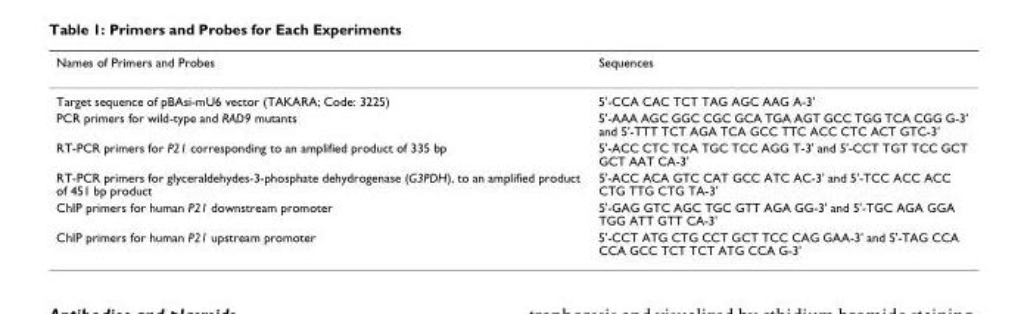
<table><thead><tr><td>Names of Primers and Probes</td><td>Sequences</td></tr></thead><tbody><tr><td>Target sequence of pBAsi-mU6 vector (TAKARA; Code: 3225)</td><td>5&#x27;-CCA CAC TCT TAG AGC AAG A-3&#x27;</td></tr><tr><td>PCR primers for wild-type and RAD9 mutants</td><td>5&#x27;-AAA AGC GGC CGC GCA TGA AGT GCC TGG TCA CGG G-3&#x27; and 5&#x27;-TTT TCT AGA TCA GCC TTC ACC CTC ACT GTC-3&#x27;</td></tr><tr><td>RT-PCR primers for P21 corresponding to an amplified product of 335 bp</td><td>5&#x27;-ACC CTC TCA TGC TCC AGG T-3&#x27; and 5&#x27;-CCT TGT TCC GCT GCT AAT CA-3&#x27;</td></tr><tr><td>RT-PCR primers for glyceraldehydes-3-phosphate dehydrogenase (G3PDH), to an amplified product of 451 bp product</td><td>5&#x27;-ACC ACA GTC CAT GCC ATC AC-3&#x27; and 5&#x27;-TCC ACC ACC CTG TTG CTG TA-3&#x27;</td></tr><tr><td>ChIP primers for human P21 downstream promoter</td><td>5&#x27;-GAG GTC AGC TGC GTT AGA GG-3&#x27; and 5&#x27;-TGC AGA GGA TGG ATT GTT CA-3&#x27;</td></tr><tr><td>ChIP primers for human P21 upstream promoter</td><td>5&#x27;-CCT ATG CTG CCT GCT TCC CAG GAA-3&#x27; and 5&#x27;-TAG CCA CCA GCC TCT TCT ATG CCA G-3&#x27;</td></tr></tbody></table>